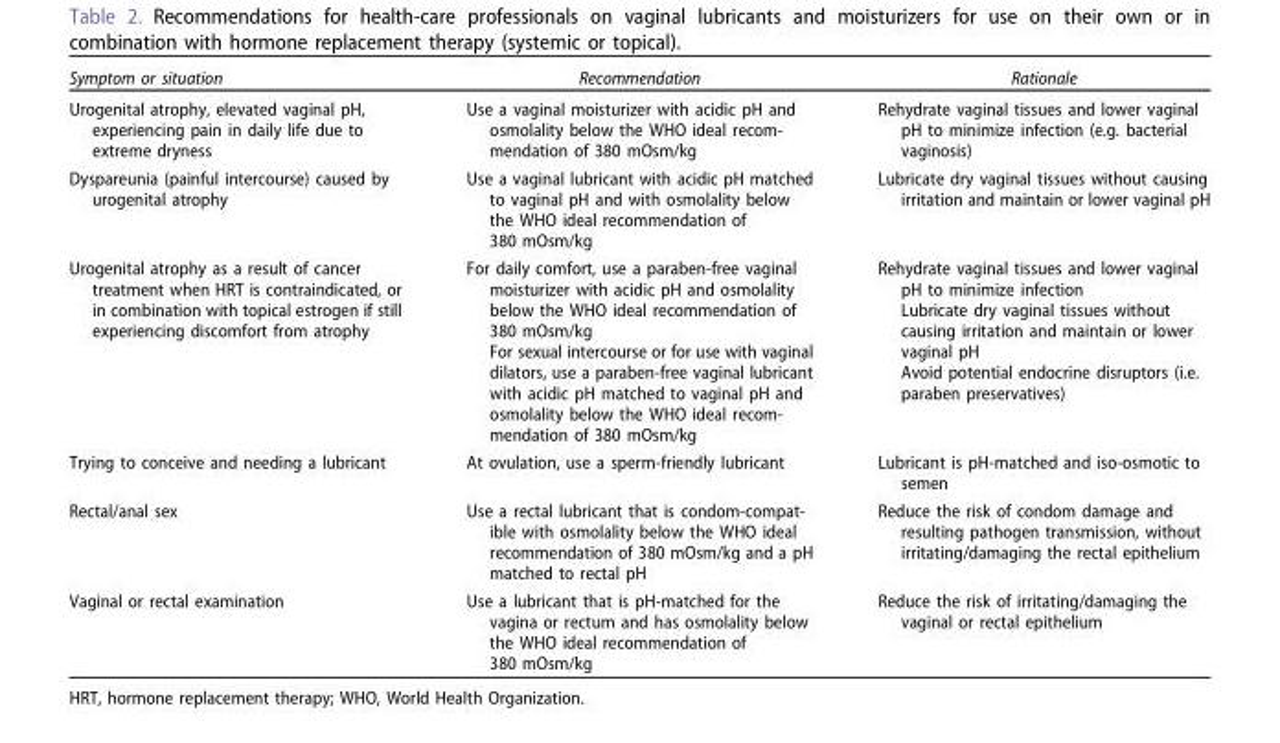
<table><thead><tr><td>Symptom or situation</td><td>Recommendation</td><td>Rationale</td></tr></thead><tbody><tr><td>Urogenital atrophy, elevated vaginal pH, experiencing pain in daily life due to extreme dryness</td><td>Use a vaginal moisturizer with acidic pH and osmolality below the WHO ideal recom- mendation of 380 mOsm/kg</td><td>Rehydrate vaginal tissues and lower vaginal pH to minimize infection (e.g. bacterial vaginosis)</td></tr><tr><td>Dyspareunia (painful intercourse) caused by urogenital atrophy</td><td>Use a vaginal lubricant with acidic pH matched to vaginal pH and with osmolality below the WHO ideal recommendation of 380 mOsm/kg</td><td>Lubricate dry vaginal tissues without causing irritation and maintain or lower vaginal pH</td></tr><tr><td>Urogenital atrophy as a result of cancer treatment when HRT is contraindicated, or in combination with topical estrogen if still experiencing discomfort from atrophy</td><td>For daily comfort, use a paraben-free vaginal moisturizer with acidic pH and osmolality below the WHO ideal recommendation of 380 mOsm/kg For sexual intercourse or for use with vaginal dilators, use a paraben-free vaginal lubricant with acidic pH matched to vaginal pH and osmolality below the WHO ideal recom- mendation of 380 mOsm/kg</td><td>Rehydrate vaginal tissues and lower vaginal pH to minimize infection Lubricate dry vaginal tissues without causing irritation and maintain or lower vaginal pH Avoid potential endocrine disruptors (i.e. paraben preservatives)</td></tr><tr><td>Trying to conceive and needing a lubricant</td><td>At ovulation, use a sperm-friendly lubricant</td><td>Lubricant is pH-matched and iso-osmotic to semen</td></tr><tr><td>Rectal/anal sex</td><td>Use a rectal lubricant that is condom-compat- ible with osmolality below the WHO ideal recommendation of 380 mOsm/kg and a pH matched to rectal pH</td><td>Reduce the risk of condom damage and resulting pathogen transmission, without irritating/damaging the rectal epithelium</td></tr><tr><td>Vaginal or rectal examination</td><td>Use a lubricant that is pH-matched for the vagina or rectum and has osmolality below the WHO ideal recommendation of 380 mOsm/kg</td><td>Reduce the risk of irritating/damaging the vaginal or rectal epithelium</td></tr></tbody></table>